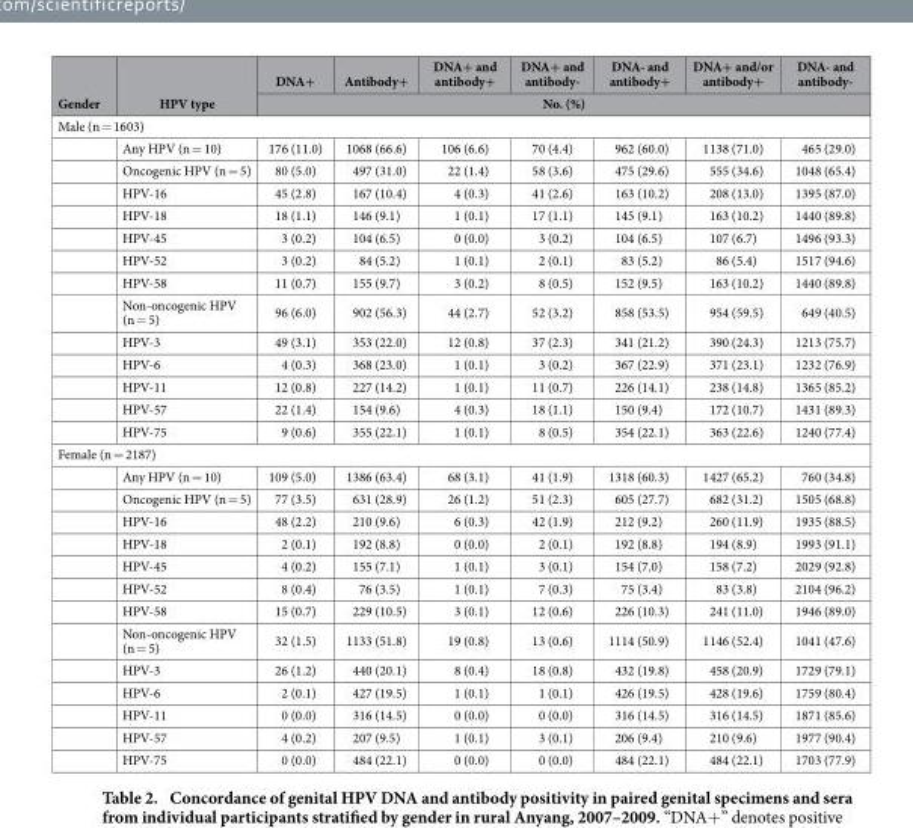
<table><thead><tr><td rowspan="2">Gender</td><td rowspan="2">HPV type</td><td>DNA+</td><td>Antibody+</td><td>DNA+ and antibody+</td><td>DNA+ and antibody-</td><td>DNA- and antibody+</td><td>DNA+ and/or antibody+</td><td>DNA- and antibody-</td></tr><tr><td colspan="7">No. (%)</td></tr></thead><tbody><tr><td colspan="9">Male (n = 1603)</td></tr><tr><td></td><td>Any HPV (n = 10)</td><td>176 (11.0)</td><td>1068 (66.6)</td><td>106 (6.6)</td><td>70 (4.4)</td><td>962 (60.0)</td><td>1138 (71.0)</td><td>465 (29.0)</td></tr><tr><td></td><td>Oncogenic HPV (n = 5)</td><td>80 (5.0)</td><td>497 (31.0)</td><td>22 (1.4)</td><td>58 (3.6)</td><td>475 (29.6)</td><td>555 (34.6)</td><td>1048 (65.4)</td></tr><tr><td></td><td>HPV-16</td><td>45 (2.8)</td><td>167 (10.4)</td><td>4 (0.3)</td><td>41 (2.6)</td><td>163 (10.2)</td><td>208 (13.0)</td><td>1395 (87.0)</td></tr><tr><td></td><td>HPV-18</td><td>18 (1.1)</td><td>146 (9.1)</td><td>1 (0.1)</td><td>17 (1.1)</td><td>145 (9.1)</td><td>163 (10.2)</td><td>1440 (89.8)</td></tr><tr><td></td><td>HPV-45</td><td>3 (0.2)</td><td>104 (6.5)</td><td>0 (0.0)</td><td>3 (0.2)</td><td>104 (6.5)</td><td>107 (6.7)</td><td>1496 (93.3)</td></tr><tr><td></td><td>HPV-52</td><td>3 (0.2)</td><td>84 (5.2)</td><td>1 (0.1)</td><td>2 (0.1)</td><td>83 (5.2)</td><td>86 (5.4)</td><td>1517 (94.6)</td></tr><tr><td></td><td>HPV-58</td><td>11 (0.7)</td><td>155 (9.7)</td><td>3 (0.2)</td><td>8 (0.5)</td><td>152 (9.5)</td><td>163 (10.2)</td><td>1440 (89.8)</td></tr><tr><td></td><td>Non-oncogenic HPV (n = 5)</td><td>96 (6.0)</td><td>902 (56.3)</td><td>44 (2.7)</td><td>52 (3.2)</td><td>858 (53.5)</td><td>954 (59.5)</td><td>649 (40.5)</td></tr><tr><td></td><td>HPV-3</td><td>49 (3.1)</td><td>353 (22.0)</td><td>12 (0.8)</td><td>37 (2.3)</td><td>341 (21.2)</td><td>390 (24.3)</td><td>1213 (75.7)</td></tr><tr><td></td><td>HPV-6</td><td>4 (0.3)</td><td>368 (23.0)</td><td>1 (0.1)</td><td>3 (0.2)</td><td>367 (22.9)</td><td>371 (23.1)</td><td>1232 (76.9)</td></tr><tr><td></td><td>HPV-11</td><td>12 (0.8)</td><td>227 (14.2)</td><td>1 (0.1)</td><td>11 (0.7)</td><td>226 (14.1)</td><td>238 (14.8)</td><td>1365 (85.2)</td></tr><tr><td></td><td>HPV-57</td><td>22 (1.4)</td><td>154 (9.6)</td><td>4 (0.3)</td><td>18 (1.1)</td><td>150 (9.4)</td><td>172 (10.7)</td><td>1431 (89.3)</td></tr><tr><td></td><td>HPV-75</td><td>9 (0.6)</td><td>355 (22.1)</td><td>1 (0.1)</td><td>8 (0.5)</td><td>354 (22.1)</td><td>363 (22.6)</td><td>1240 (77.4)</td></tr><tr><td colspan="9">Female (n = 2187)</td></tr><tr><td></td><td>Any HPV (n = 10)</td><td>109 (5.0)</td><td>1386 (63.4)</td><td>68 (3.1)</td><td>41 (1.9)</td><td>1318 (60.3)</td><td>1427 (65.2)</td><td>760 (34.8)</td></tr><tr><td></td><td>Oncogenic HPV (n = 5)</td><td>77 (3.5)</td><td>631 (28.9)</td><td>26 (1.2)</td><td>51 (2.3)</td><td>605 (27.7)</td><td>682 (31.2)</td><td>1505 (68.8)</td></tr><tr><td></td><td>HPV-16</td><td>48 (2.2)</td><td>210 (9.6)</td><td>6 (0.3)</td><td>42 (1.9)</td><td>212 (9.2)</td><td>260 (11.9)</td><td>1935 (88.5)</td></tr><tr><td></td><td>HPV-18</td><td>2 (0.1)</td><td>192 (8.8)</td><td>0 (0.0)</td><td>2 (0.1)</td><td>192 (8.8)</td><td>194 (8.9)</td><td>1993 (91.1)</td></tr><tr><td></td><td>HPV-45</td><td>4 (0.2)</td><td>155 (7.1)</td><td>1 (0.1)</td><td>3 (0.1)</td><td>154 (7.0)</td><td>158 (7.2)</td><td>2029 (92.8)</td></tr><tr><td></td><td>HPV-52</td><td>8 (0.4)</td><td>76 (3.5)</td><td>1 (0.1)</td><td>7 (0.3)</td><td>75 (3.4)</td><td>83 (3.8)</td><td>2104 (96.2)</td></tr><tr><td></td><td>HPV-58</td><td>15 (0.7)</td><td>229 (10.5)</td><td>3 (0.1)</td><td>12 (0.6)</td><td>226 (10.3)</td><td>241 (11.0)</td><td>1946 (89.0)</td></tr><tr><td></td><td>Non-oncogenic HPV (n = 5)</td><td>32 (1.5)</td><td>1133 (51.8)</td><td>19 (0.8)</td><td>13 (0.6)</td><td>1114 (50.9)</td><td>1146 (52.4)</td><td>1041 (47.6)</td></tr><tr><td></td><td>HPV-3</td><td>26 (1.2)</td><td>440 (20.1)</td><td>8 (0.4)</td><td>18 (0.8)</td><td>432 (19.8)</td><td>458 (20.9)</td><td>1729 (79.1)</td></tr><tr><td></td><td>HPV-6</td><td>2 (0.1)</td><td>427 (19.5)</td><td>1 (0.1)</td><td>1 (0.1)</td><td>426 (19.5)</td><td>428 (19.6)</td><td>1759 (80.4)</td></tr><tr><td></td><td>HPV-11</td><td>0 (0.0)</td><td>316 (14.5)</td><td>0 (0.0)</td><td>0 (0.0)</td><td>316 (14.5)</td><td>316 (14.5)</td><td>1871 (85.6)</td></tr><tr><td></td><td>HPV-57</td><td>4 (0.2)</td><td>207 (9.5)</td><td>1 (0.1)</td><td>3 (0.1)</td><td>206 (9.4)</td><td>210 (9.6)</td><td>1977 (90.4)</td></tr><tr><td></td><td>HPV-75</td><td>0 (0.0)</td><td>484 (22.1)</td><td>0 (0.0)</td><td>0 (0.0)</td><td>484 (22.1)</td><td>484 (22.1)</td><td>1703 (77.9)</td></tr></tbody></table>